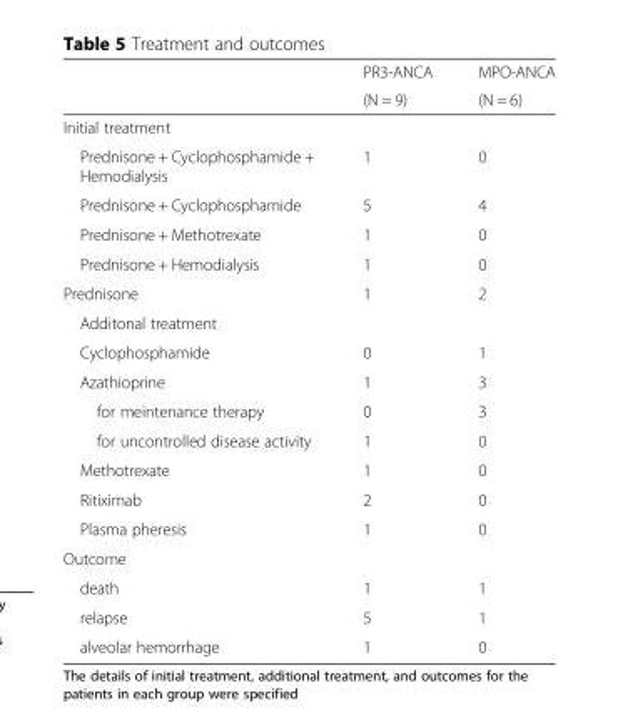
<table><thead><tr><td rowspan="2"></td><td rowspan="2">PR3-ANCA (N = 9)</td><td rowspan="2">MPO-ANCA (N = 6)</td></tr><tr></tr></thead><tbody><tr><td colspan="3">Initial treatment</td></tr><tr><td>Prednisone + Cyclophosphamide + Hemodialysis</td><td>1</td><td>0</td></tr><tr><td>Prednisone + Cyclophosphamide</td><td>5</td><td>4</td></tr><tr><td>Prednisone + Methotrexate</td><td>1</td><td>0</td></tr><tr><td>Prednisone + Hemodialysis</td><td>1</td><td>0</td></tr><tr><td>Prednisone</td><td>1</td><td>2</td></tr><tr><td colspan="3">Additonal treatment</td></tr><tr><td>Cyclophosphamide</td><td>0</td><td>1</td></tr><tr><td>Azathioprine</td><td>1</td><td>3</td></tr><tr><td>for meintenance therapy</td><td>0</td><td>3</td></tr><tr><td>for uncontrolled disease activity</td><td>1</td><td>0</td></tr><tr><td>Methotrexate</td><td>1</td><td>0</td></tr><tr><td>Ritiximab</td><td>2</td><td>0</td></tr><tr><td>Plasma pheresis</td><td>1</td><td>0</td></tr><tr><td colspan="3">Outcome</td></tr><tr><td>death</td><td>1</td><td>1</td></tr><tr><td>relapse</td><td>5</td><td>1</td></tr><tr><td>alveolar hemorrhage</td><td>1</td><td>0</td></tr></tbody></table>